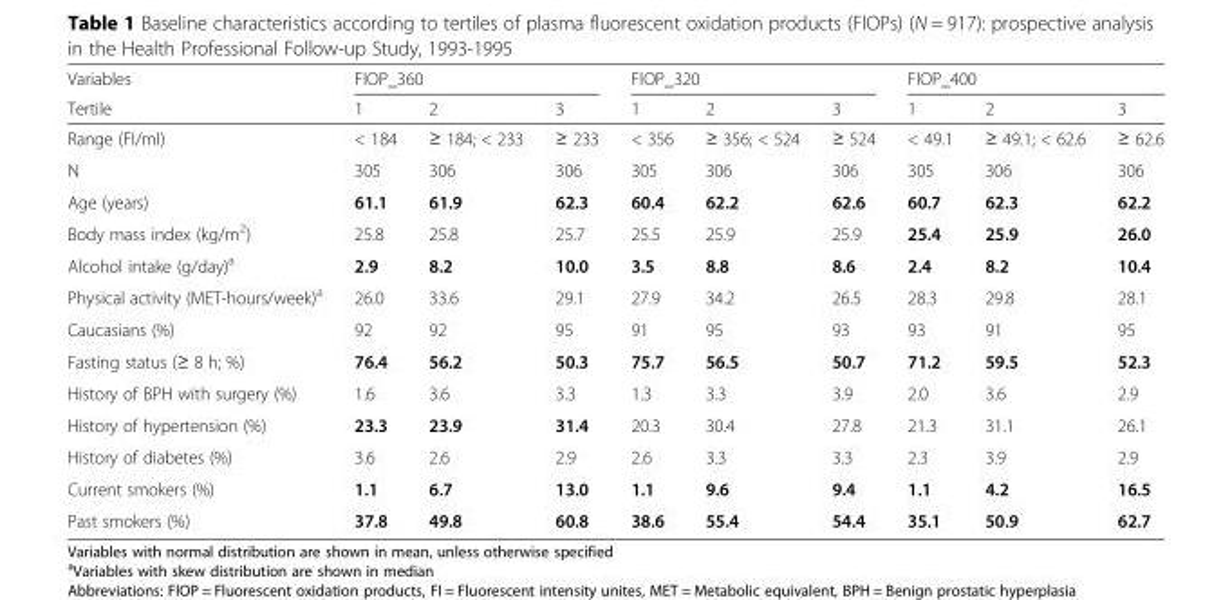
<table><thead><tr><td rowspan="2">Variables Tertile</td><td colspan="3">FlOP_360</td><td colspan="3">FlOP_320</td><td colspan="3">FlOP_400</td></tr><tr><td>1</td><td>2</td><td>3</td><td>1</td><td>2</td><td>3</td><td>1</td><td>2</td><td>3</td></tr></thead><tbody><tr><td>Range (FI/ml)</td><td>&lt; 184</td><td>≥ 184; &lt; 233</td><td>≥ 233</td><td>&lt; 356</td><td>≥ 356; &lt; 524</td><td>≥ 524</td><td>&lt; 49.1</td><td>≥ 49.1; &lt; 62.6</td><td>≥ 62.6</td></tr><tr><td>N</td><td>305</td><td>306</td><td>306</td><td>305</td><td>306</td><td>306</td><td>305</td><td>306</td><td>306</td></tr><tr><td>Age (years)</td><td>61.1</td><td>61.9</td><td>62.3</td><td>60.4</td><td>62.2</td><td>62.6</td><td>60.7</td><td>62.3</td><td>62.2</td></tr><tr><td>Body mass index (kg/m<sup>2</sup>)</td><td>25.8</td><td>25.8</td><td>25.7</td><td>25.5</td><td>25.9</td><td>25.9</td><td>25.4</td><td>25.9</td><td>26.0</td></tr><tr><td>Alcohol intake (g/day)<sup>a</sup></td><td>2.9</td><td>8.2</td><td>10.0</td><td>3.5</td><td>8.8</td><td>8.6</td><td>2.4</td><td>8.2</td><td>10.4</td></tr><tr><td>Physical activity (MET-hours/week)<sup>a</sup></td><td>26.0</td><td>33.6</td><td>29.1</td><td>27.9</td><td>34.2</td><td>26.5</td><td>28.3</td><td>29.8</td><td>28.1</td></tr><tr><td>Caucasians (%)</td><td>92</td><td>92</td><td>95</td><td>91</td><td>95</td><td>93</td><td>93</td><td>91</td><td>95</td></tr><tr><td>Fasting status (≥ 8 h; %)</td><td>76.4</td><td>56.2</td><td>50.3</td><td>75.7</td><td>56.5</td><td>50.7</td><td>71.2</td><td>59.5</td><td>52.3</td></tr><tr><td>History of BPH with surgery (%)</td><td>1.6</td><td>3.6</td><td>3.3</td><td>1.3</td><td>3.3</td><td>3.9</td><td>2.0</td><td>3.6</td><td>2.9</td></tr><tr><td>History of hypertension (%)</td><td>23.3</td><td>23.9</td><td>31.4</td><td>20.3</td><td>30.4</td><td>27.8</td><td>21.3</td><td>31.1</td><td>26.1</td></tr><tr><td>History of diabetes (%)</td><td>3.6</td><td>2.6</td><td>2.9</td><td>2.6</td><td>3.3</td><td>3.3</td><td>2.3</td><td>3.9</td><td>2.9</td></tr><tr><td>Current smokers (%)</td><td>1.1</td><td>6.7</td><td>13.0</td><td>1.1</td><td>9.6</td><td>9.4</td><td>1.1</td><td>4.2</td><td>16.5</td></tr><tr><td>Past smokers (%)</td><td>37.8</td><td>49.8</td><td>60.8</td><td>38.6</td><td>55.4</td><td>54.4</td><td>35.1</td><td>50.9</td><td>62.7</td></tr></tbody></table>